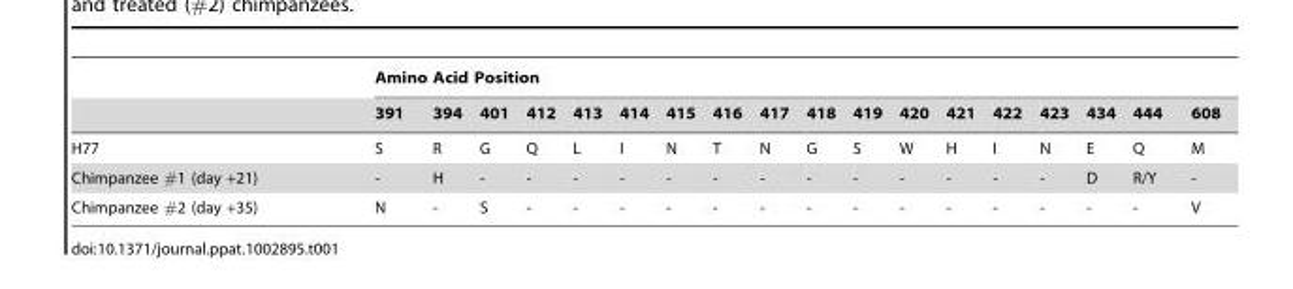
<table><thead><tr><td rowspan="2"></td><td colspan="18">Amino Acid Position</td></tr><tr><td>391</td><td>394</td><td>401</td><td>412</td><td>413</td><td>414</td><td>415</td><td>416</td><td>417</td><td>418</td><td>419</td><td>420</td><td>421</td><td>422</td><td>423</td><td>434</td><td>444</td><td>608</td></tr></thead><tbody><tr><td>H77</td><td>S</td><td>R</td><td>G</td><td>Q</td><td>L</td><td>I</td><td>N</td><td>T</td><td>N</td><td>G</td><td>S</td><td>W</td><td>H</td><td>I</td><td>N</td><td>E</td><td>Q</td><td>M</td></tr><tr><td>Chimpanzee #1 (day +21)</td><td>-</td><td>H</td><td>-</td><td>-</td><td>-</td><td>-</td><td>-</td><td>-</td><td>-</td><td>-</td><td>-</td><td>-</td><td>-</td><td>-</td><td>-</td><td>D</td><td>R/Y</td><td>-</td></tr><tr><td>Chimpanzee #2 (day +35)</td><td>N</td><td>-</td><td>S</td><td>-</td><td>-</td><td>-</td><td>-</td><td>-</td><td>-</td><td>-</td><td>-</td><td>-</td><td>-</td><td>-</td><td>-</td><td>-</td><td>-</td><td>V</td></tr></tbody></table>